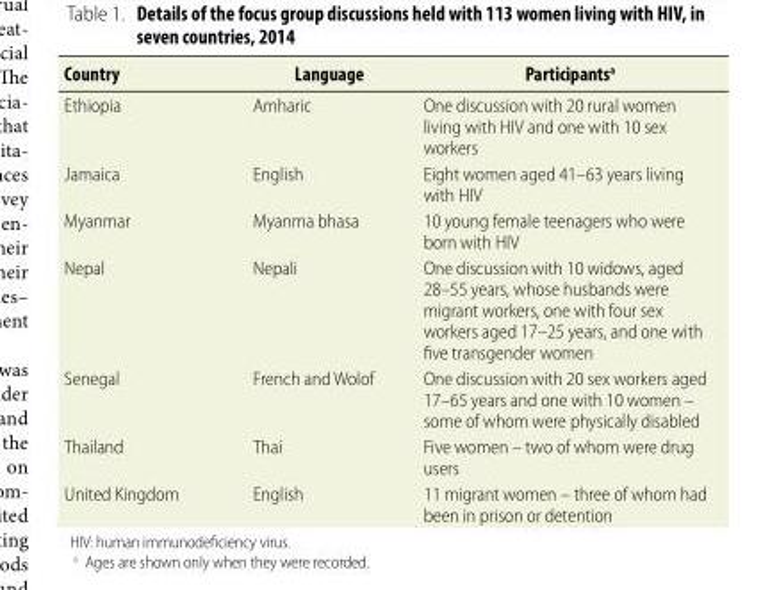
<table><thead><tr><td>Country</td><td>Language</td><td>Participants<sup>a</sup></td></tr></thead><tbody><tr><td>Ethiopia</td><td>Amharic</td><td>One discussion with 20 rural women living with HIV and one with 10 sex workers</td></tr><tr><td>Jamaica</td><td>English</td><td>Eight women aged 41–63 years living with HIV</td></tr><tr><td>Myanmar</td><td>Myanma bhasa</td><td>10 young female teenagers who were born with HIV</td></tr><tr><td>Nepal</td><td>Nepali</td><td>One discussion with 10 widows, aged 28–55 years, whose husbands were migrant workers, one with four sex workers aged 17–25 years, and one with five transgender women</td></tr><tr><td>Senegal</td><td>French and Wolof</td><td>One discussion with 20 sex workers aged 17–65 years and one with 10 women – some of whom were physically disabled</td></tr><tr><td>Thailand</td><td>Thai</td><td>Five women – two of whom were drug users</td></tr><tr><td>United Kingdom</td><td>English</td><td>11 migrant women – three of whom had been in prison or detention</td></tr></tbody></table>